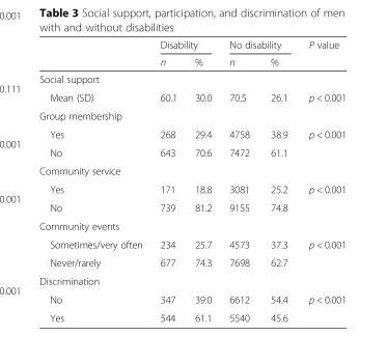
<table><thead><tr><td rowspan="2"></td><td colspan="2">Disability</td><td colspan="2">No disability</td><td rowspan="2">P value</td></tr><tr><td>n</td><td>%</td><td>n</td><td>%</td></tr></thead><tbody><tr><td colspan="6">Social support</td></tr><tr><td>Mean (SD)</td><td>60.1</td><td>30.0</td><td>70.5</td><td>26.1</td><td>p &lt; 0.001</td></tr><tr><td colspan="6">Group membership</td></tr><tr><td>Yes</td><td>268</td><td>29.4</td><td>4758</td><td>38.9</td><td rowspan="2">p &lt; 0.001</td></tr><tr><td>No</td><td>643</td><td>70.6</td><td>7472</td><td>61.1</td></tr><tr><td colspan="6">Community service</td></tr><tr><td>Yes</td><td>171</td><td>18.8</td><td>3081</td><td>25.2</td><td rowspan="2">p &lt; 0.001</td></tr><tr><td>No</td><td>739</td><td>81.2</td><td>9155</td><td>74.8</td></tr><tr><td colspan="6">Community events</td></tr><tr><td>Sometimes/very often</td><td>234</td><td>25.7</td><td>4573</td><td>37.3</td><td rowspan="2">p &lt; 0.001</td></tr><tr><td>Never/rarely</td><td>677</td><td>74.3</td><td>7698</td><td>62.7</td></tr><tr><td colspan="6">Discrimination</td></tr><tr><td>No</td><td>347</td><td>39.0</td><td>6612</td><td>54.4</td><td rowspan="2">p &lt; 0.001</td></tr><tr><td>Yes</td><td>544</td><td>61.1</td><td>5540</td><td>45.6</td></tr></tbody></table>